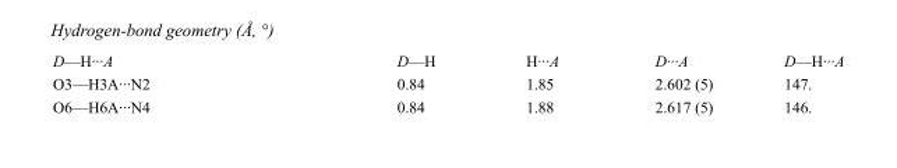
<table><tbody><tr><td>D—H···A</td><td>D—H</td><td>H···A</td><td>D···A</td><td>D—H···A</td></tr><tr><td>O3—H3A···N2</td><td>0.84</td><td>1.85</td><td>2.602 (5)</td><td>147.</td></tr><tr><td>O6—H6A···N4</td><td>0.84</td><td>1.88</td><td>2.617 (5)</td><td>146.</td></tr></tbody></table>